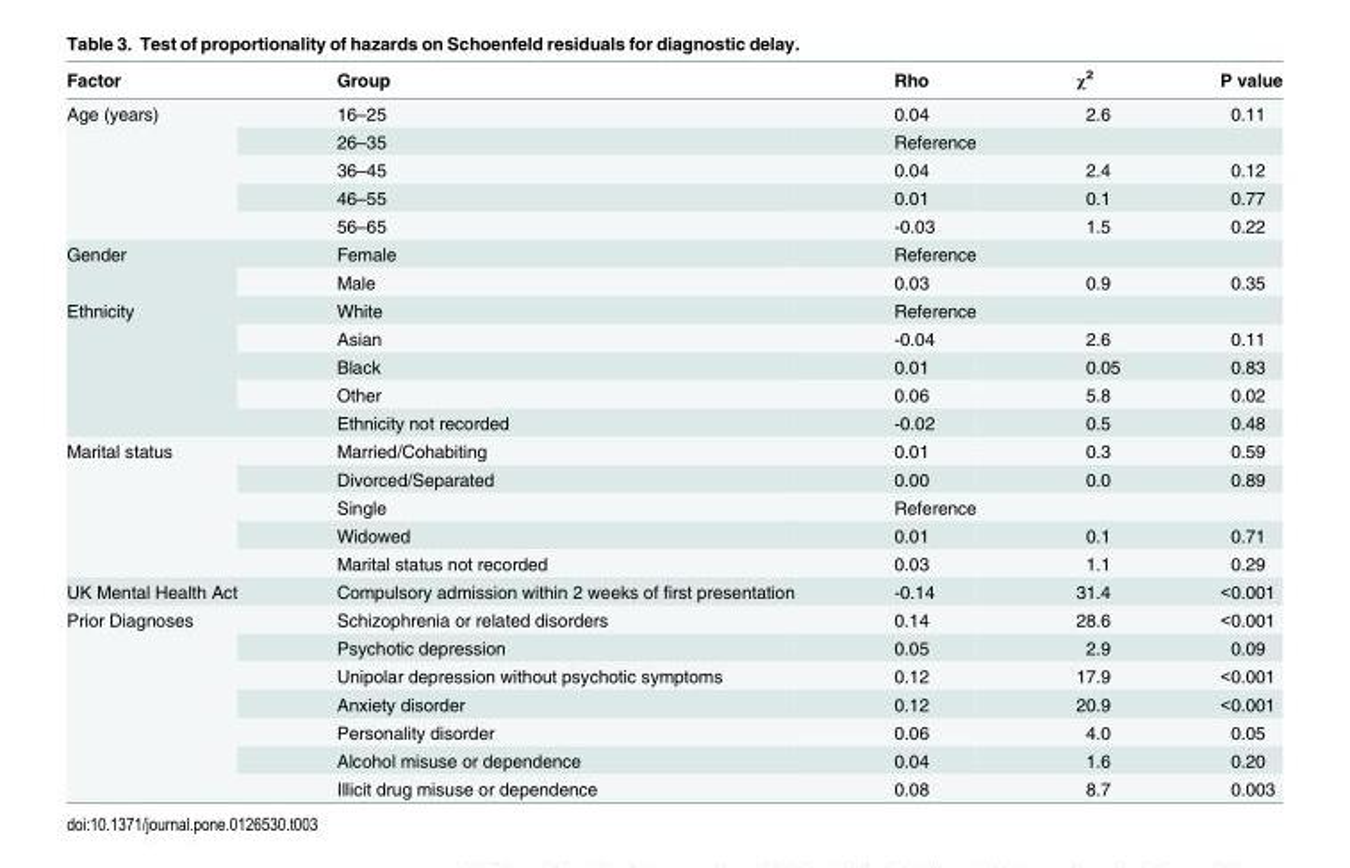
<table><thead><tr><td>Factor</td><td>Group</td><td>Rho</td><td>χ<sup>2</sup></td><td>P value</td></tr></thead><tbody><tr><td rowspan="5">Age (years)</td><td>16–25</td><td>0.04</td><td>2.6</td><td>0.11</td></tr><tr><td>26–35</td><td>Reference</td><td></td><td></td></tr><tr><td>36–45</td><td>0.04</td><td>2.4</td><td>0.12</td></tr><tr><td>46–55</td><td>0.01</td><td>0.1</td><td>0.77</td></tr><tr><td>56–65</td><td>-0.03</td><td>1.5</td><td>0.22</td></tr><tr><td rowspan="2">Gender</td><td>Female</td><td>Reference</td><td></td><td></td></tr><tr><td>Male</td><td>0.03</td><td>0.9</td><td>0.35</td></tr><tr><td rowspan="5">Ethnicity</td><td>White</td><td>Reference</td><td></td><td></td></tr><tr><td>Asian</td><td>-0.04</td><td>2.6</td><td>0.11</td></tr><tr><td>Black</td><td>0.01</td><td>0.05</td><td>0.83</td></tr><tr><td>Other</td><td>0.06</td><td>5.8</td><td>0.02</td></tr><tr><td>Ethnicity not recorded</td><td>-0.02</td><td>0.5</td><td>0.48</td></tr><tr><td rowspan="5">Marital status</td><td>Married/Cohabiting</td><td>0.01</td><td>0.3</td><td>0.59</td></tr><tr><td>Divorced/Separated</td><td>0.00</td><td>0.0</td><td>0.89</td></tr><tr><td>Single</td><td>Reference</td><td></td><td></td></tr><tr><td>Widowed</td><td>0.01</td><td>0.1</td><td>0.71</td></tr><tr><td>Marital status not recorded</td><td>0.03</td><td>1.1</td><td>0.29</td></tr><tr><td>UK Mental Health Act</td><td>Compulsory admission within 2 weeks of first presentation</td><td>-0.14</td><td>31.4</td><td>&lt;0.001</td></tr><tr><td rowspan="7">Prior Diagnoses</td><td>Schizophrenia or related disorders</td><td>0.14</td><td>28.6</td><td>&lt;0.001</td></tr><tr><td>Psychotic depression</td><td>0.05</td><td>2.9</td><td>0.09</td></tr><tr><td>Unipolar depression without psychotic symptoms</td><td>0.12</td><td>17.9</td><td>&lt;0.001</td></tr><tr><td>Anxiety disorder</td><td>0.12</td><td>20.9</td><td>&lt;0.001</td></tr><tr><td>Personality disorder</td><td>0.06</td><td>4.0</td><td>0.05</td></tr><tr><td>Alcohol misuse or dependence</td><td>0.04</td><td>1.6</td><td>0.20</td></tr><tr><td>Illicit drug misuse or dependence</td><td>0.08</td><td>8.7</td><td>0.003</td></tr></tbody></table>